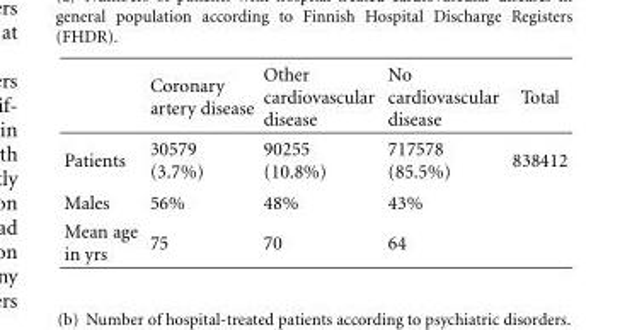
<table><thead><tr><td></td><td>Coronary artery disease</td><td>Other cardiovascular disease</td><td>No cardiovascular disease</td><td>Total</td></tr></thead><tbody><tr><td>Patients</td><td>30579 (3.7%)</td><td>90255 (10.8%)</td><td>717578 (85.5%)</td><td>838412</td></tr><tr><td>Males</td><td>56%</td><td>48%</td><td>43%</td><td></td></tr><tr><td>Mean age in yrs</td><td>75</td><td>70</td><td>64</td><td></td></tr></tbody></table>